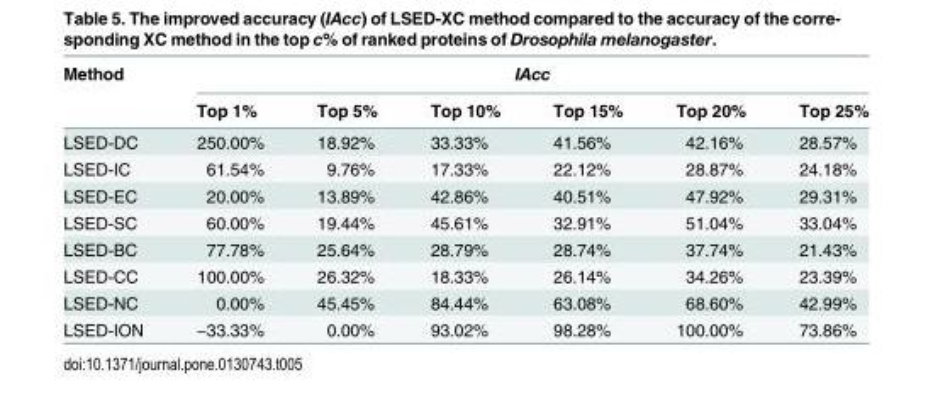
<table><thead><tr><td rowspan="2">Method</td><td colspan="6">IAcc</td></tr><tr><td>Top 1%</td><td>Top 5%</td><td>Top 10%</td><td>Top 15%</td><td>Top 20%</td><td>Top 25%</td></tr></thead><tbody><tr><td>LSED-DC</td><td>250.00%</td><td>18.92%</td><td>33.33%</td><td>41.56%</td><td>42.16%</td><td>28.57%</td></tr><tr><td>LSED-IC</td><td>61.54%</td><td>9.76%</td><td>17.33%</td><td>22.12%</td><td>28.87%</td><td>24.18%</td></tr><tr><td>LSED-EC</td><td>20.00%</td><td>13.89%</td><td>42.86%</td><td>40.51%</td><td>47.92%</td><td>29.31%</td></tr><tr><td>LSED-SC</td><td>60.00%</td><td>19.44%</td><td>45.61%</td><td>32.91%</td><td>51.04%</td><td>33.04%</td></tr><tr><td>LSED-BC</td><td>77.78%</td><td>25.64%</td><td>28.79%</td><td>28.74%</td><td>37.74%</td><td>21.43%</td></tr><tr><td>LSED-CC</td><td>100.00%</td><td>26.32%</td><td>18.33%</td><td>26.14%</td><td>34.26%</td><td>23.39%</td></tr><tr><td>LSED-NC</td><td>0.00%</td><td>45.45%</td><td>84.44%</td><td>63.08%</td><td>68.60%</td><td>42.99%</td></tr><tr><td>LSED-ION</td><td>−33.33%</td><td>0.00%</td><td>93.02%</td><td>98.28%</td><td>100.00%</td><td>73.86%</td></tr></tbody></table>